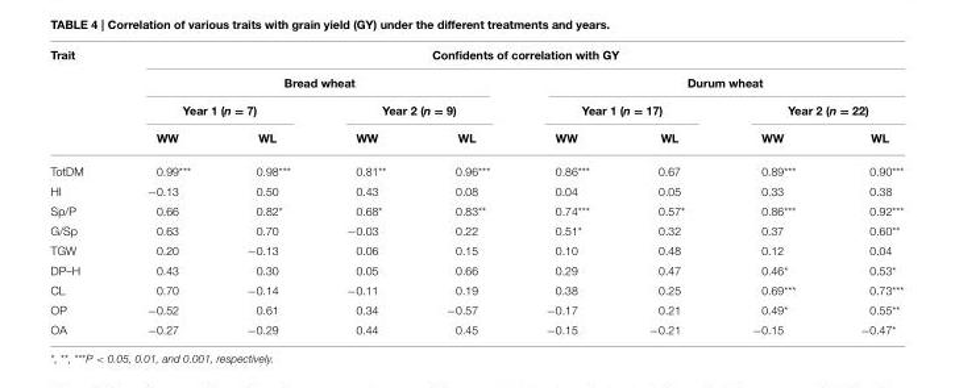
<table><thead><tr><td rowspan="4">Trait</td><td colspan="8">Confidents of correlation with GY</td></tr><tr><td colspan="4">Bread wheat</td><td colspan="4">Durum wheat</td></tr><tr><td colspan="2">Year 1 (n = 7)</td><td colspan="2">Year 2 (n = 9)</td><td colspan="2">Year 1 (n = 17)</td><td colspan="2">Year 2 (n = 22)</td></tr><tr><td>WW</td><td>WL</td><td>WW</td><td>WL</td><td>WW</td><td>WL</td><td>WW</td><td>WL</td></tr></thead><tbody><tr><td>TotDM</td><td>0.99***</td><td>0.98***</td><td>0.81**</td><td>0.96***</td><td>0.86***</td><td>0.67</td><td>0.89***</td><td>0.90***</td></tr><tr><td>HI</td><td>−0.13</td><td>0.50</td><td>0.43</td><td>0.08</td><td>0.04</td><td>0.05</td><td>0.33</td><td>0.38</td></tr><tr><td>Sp/P</td><td>0.66</td><td>0.82*</td><td>0.68*</td><td>0.83**</td><td>0.74***</td><td>0.57*</td><td>0.86***</td><td>0.92***</td></tr><tr><td>G/Sp</td><td>0.63</td><td>0.70</td><td>−0.03</td><td>0.22</td><td>0.51*</td><td>0.32</td><td>0.37</td><td>0.60**</td></tr><tr><td>TGW</td><td>0.20</td><td>−0.13</td><td>0.06</td><td>0.15</td><td>0.10</td><td>0.48</td><td>0.12</td><td>0.04</td></tr><tr><td>DP–H</td><td>0.43</td><td>0.30</td><td>0.05</td><td>0.66</td><td>0.29</td><td>0.47</td><td>0.46*</td><td>0.53*</td></tr><tr><td>CL</td><td>0.70</td><td>−0.14</td><td>−0.11</td><td>0.19</td><td>0.38</td><td>0.25</td><td>0.69***</td><td>0.73***</td></tr><tr><td>OP</td><td>−0.52</td><td>0.61</td><td>0.34</td><td>−0.57</td><td>−0.17</td><td>0.21</td><td>0.49*</td><td>0.55**</td></tr><tr><td>OA</td><td>−0.27</td><td>−0.29</td><td>0.44</td><td>0.45</td><td>−0.15</td><td>−0.21</td><td>−0.15</td><td>−0.47*</td></tr></tbody></table>